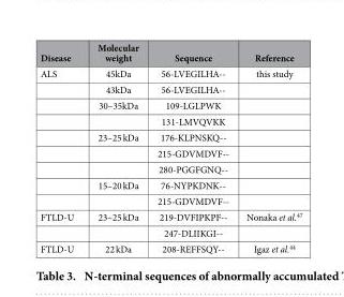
<table><thead><tr><td>Disease</td><td>Molecular weight</td><td>Sequence</td><td>Reference</td></tr></thead><tbody><tr><td rowspan="9">ALS</td><td>45kDa</td><td>56-LVEGILHA--</td><td>this study</td></tr><tr><td>43kDa</td><td>56-LVEGILHA--</td><td></td></tr><tr><td>30–35kDa</td><td>109-LGLPWK</td><td></td></tr><tr><td></td><td>131-LMVQVKK</td><td></td></tr><tr><td>23–25 kDa</td><td>176-KLPNSKQ--</td><td></td></tr><tr><td></td><td>215-GDVMDVF--</td><td></td></tr><tr><td></td><td>280-PGGFGNQ--</td><td></td></tr><tr><td>15–20 kDa</td><td>76-NYPKDNK--</td><td></td></tr><tr><td></td><td>215-GDVMDVF--</td><td></td></tr><tr><td rowspan="2">FTLD-U</td><td>23–25 kDa</td><td>219-DVFIPKPF--</td><td>Nonaka et al.<sup>47</sup></td></tr><tr><td></td><td>247-DLIIKGI--</td><td></td></tr><tr><td>FTLD-U</td><td>22 kDa</td><td>208-REFFSQY--</td><td>Igaz et al.<sup>44</sup></td></tr></tbody></table>